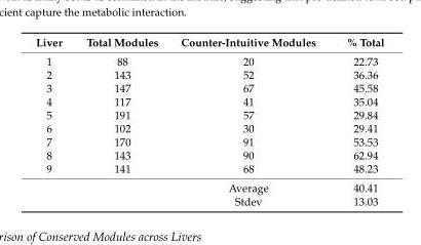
<table><thead><tr><td>Liver</td><td>Total Modules</td><td>Counter-Intuitive Modules</td><td>% Total</td></tr></thead><tbody><tr><td>1</td><td>88</td><td>20</td><td>22.73</td></tr><tr><td>2</td><td>143</td><td>52</td><td>36.36</td></tr><tr><td>3</td><td>147</td><td>67</td><td>45.58</td></tr><tr><td>4</td><td>117</td><td>41</td><td>35.04</td></tr><tr><td>5</td><td>191</td><td>57</td><td>29.84</td></tr><tr><td>6</td><td>102</td><td>30</td><td>29.41</td></tr><tr><td>7</td><td>170</td><td>91</td><td>53.53</td></tr><tr><td>8</td><td>143</td><td>90</td><td>62.94</td></tr><tr><td rowspan="3">9</td><td>141</td><td>68</td><td>48.23</td></tr><tr><td></td><td>Average</td><td>40.41</td></tr><tr><td></td><td>Stdev</td><td>13.03</td></tr></tbody></table>